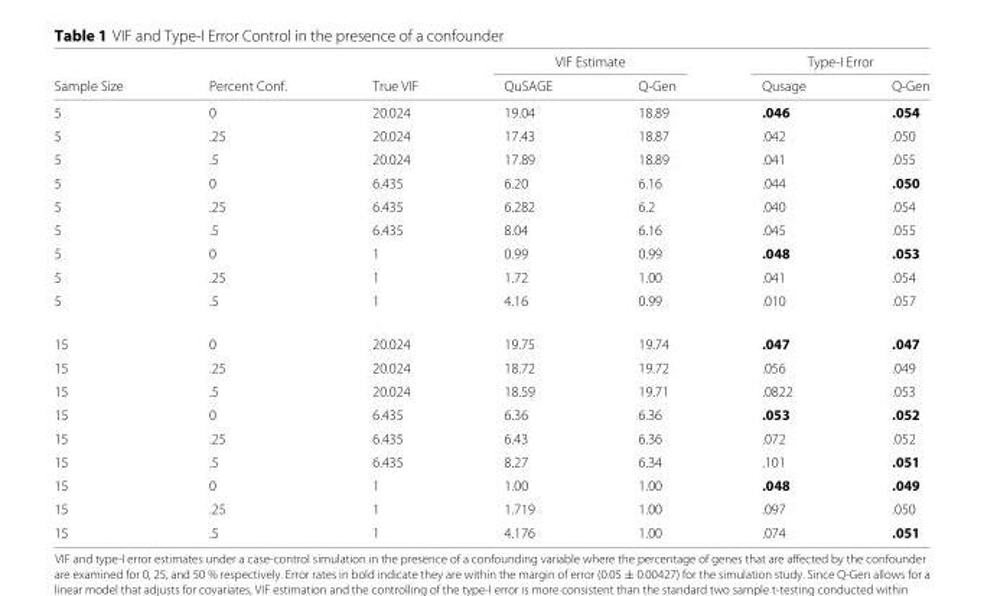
<table><thead><tr><td rowspan="2">Sample Size</td><td rowspan="2">Percent Conf.</td><td rowspan="2">True VIF</td><td colspan="2">VIF Estimate</td><td colspan="2">Type-I Error</td></tr><tr><td>QuSAGE</td><td>Q-Gen</td><td>Qusage</td><td>Q-Gen</td></tr></thead><tbody><tr><td>5</td><td>0</td><td>20.024</td><td>19.04</td><td>18.89</td><td>.046</td><td>.054</td></tr><tr><td>5</td><td>.25</td><td>20.024</td><td>17.43</td><td>18.87</td><td>.042</td><td>.050</td></tr><tr><td>5</td><td>.5</td><td>20.024</td><td>17.89</td><td>18.89</td><td>.041</td><td>.055</td></tr><tr><td>5</td><td>0</td><td>6.435</td><td>6.20</td><td>6.16</td><td>.044</td><td>.050</td></tr><tr><td>5</td><td>.25</td><td>6.435</td><td>6.282</td><td>6.2</td><td>.040</td><td>.054</td></tr><tr><td>5</td><td>.5</td><td>6.435</td><td>8.04</td><td>6.16</td><td>.045</td><td>.055</td></tr><tr><td>5</td><td>0</td><td>1</td><td>0.99</td><td>0.99</td><td>.048</td><td>.053</td></tr><tr><td>5</td><td>.25</td><td>1</td><td>1.72</td><td>1.00</td><td>.041</td><td>.054</td></tr><tr><td>5</td><td>.5</td><td>1</td><td>4.16</td><td>0.99</td><td>.010</td><td>.057</td></tr><tr><td>15</td><td>0</td><td>20.024</td><td>19.75</td><td>19.74</td><td>.047</td><td>.047</td></tr><tr><td>15</td><td>.25</td><td>20.024</td><td>18.72</td><td>19.72</td><td>.056</td><td>.049</td></tr><tr><td>15</td><td>.5</td><td>20.024</td><td>18.59</td><td>19.71</td><td>.0822</td><td>.053</td></tr><tr><td>15</td><td>0</td><td>6.435</td><td>6.36</td><td>6.36</td><td>.053</td><td>.052</td></tr><tr><td>15</td><td>.25</td><td>6.435</td><td>6.43</td><td>6.36</td><td>.072</td><td>.052</td></tr><tr><td>15</td><td>.5</td><td>6.435</td><td>8.27</td><td>6.34</td><td>.101</td><td>.051</td></tr><tr><td>15</td><td>0</td><td>1</td><td>1.00</td><td>1.00</td><td>.048</td><td>.049</td></tr><tr><td>15</td><td>.25</td><td>1</td><td>1.719</td><td>1.00</td><td>.097</td><td>.050</td></tr><tr><td>15</td><td>.5</td><td>1</td><td>4.176</td><td>1.00</td><td>.074</td><td>.051</td></tr></tbody></table>